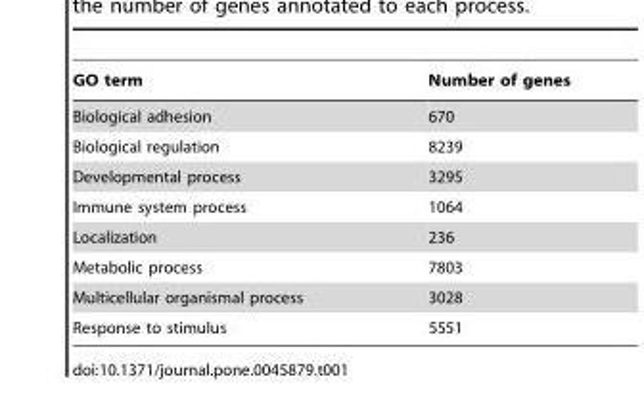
<table><thead><tr><td>GO term</td><td>Number of genes</td></tr></thead><tbody><tr><td>Biological adhesion</td><td>670</td></tr><tr><td>Biological regulation</td><td>8239</td></tr><tr><td>Developmental process</td><td>3295</td></tr><tr><td>Immune system process</td><td>1064</td></tr><tr><td>Localization</td><td>236</td></tr><tr><td>Metabolic process</td><td>7803</td></tr><tr><td>Multicellular organismal process</td><td>3028</td></tr><tr><td>Response to stimulus</td><td>5551</td></tr></tbody></table>